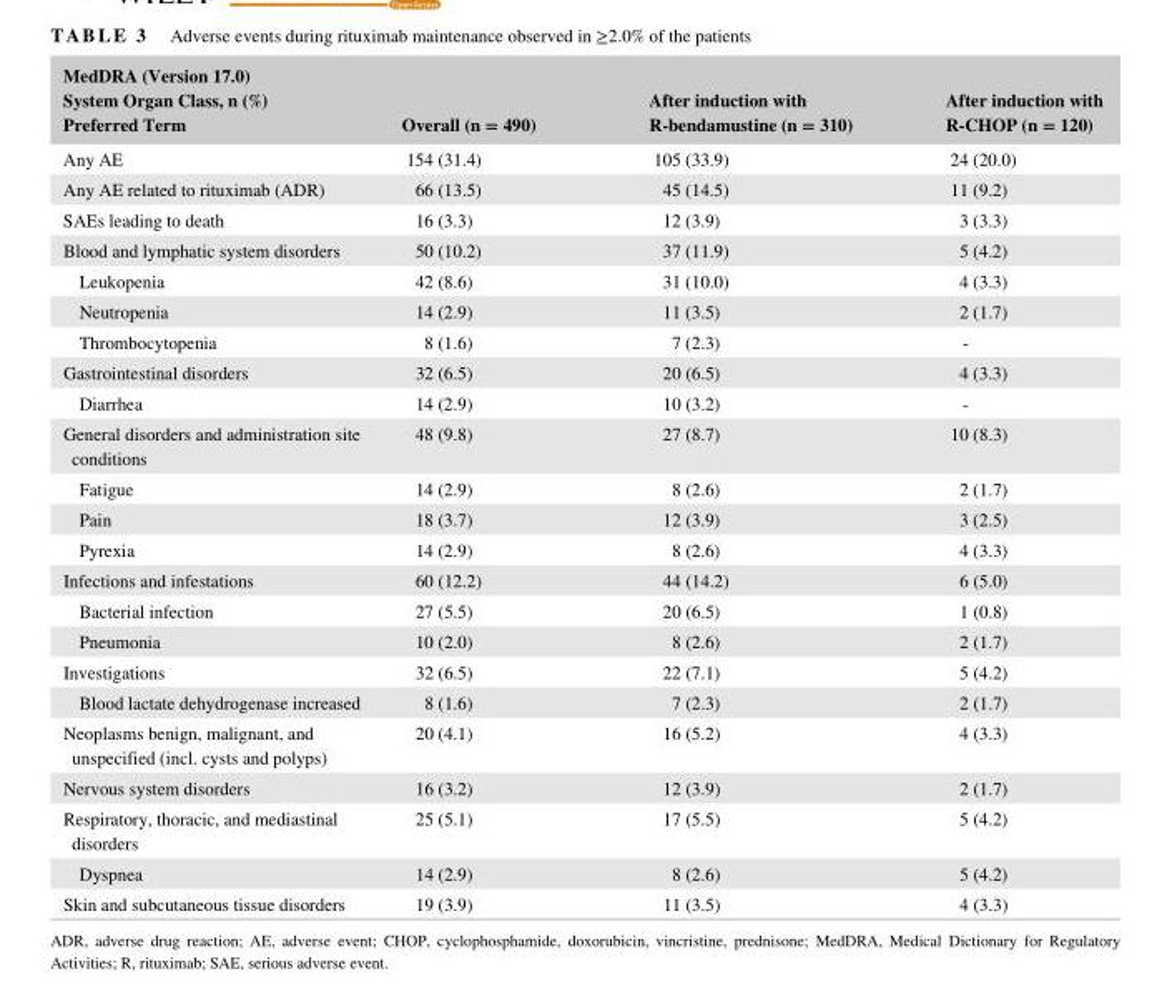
<table><thead><tr><td>MedDRA (Version 17.0) System Organ Class, n (%) Preferred Term</td><td>Overall (n = 490)</td><td>After induction with R- bendamustine (n = 310)</td><td>After induction with R- CHOP (n = 120)</td></tr></thead><tbody><tr><td>Any AE</td><td>154 (31.4)</td><td>105 (33.9)</td><td>24 (20.0)</td></tr><tr><td>Any AE related to rituximab (ADR)</td><td>66 (13.5)</td><td>45 (14.5)</td><td>11 (9.2)</td></tr><tr><td>SAEs leading to death</td><td>16 (3.3)</td><td>12 (3.9)</td><td>3 (3.3)</td></tr><tr><td>Blood and lymphatic system disorders</td><td>50 (10.2)</td><td>37 (11.9)</td><td>5 (4.2)</td></tr><tr><td>Leukopenia</td><td>42 (8.6)</td><td>31 (10.0)</td><td>4 (3.3)</td></tr><tr><td>Neutropenia</td><td>14 (2.9)</td><td>11 (3.5)</td><td>2 (1.7)</td></tr><tr><td>Thrombocytopenia</td><td>8 (1.6)</td><td>7 (2.3)</td><td>-</td></tr><tr><td>Gastrointestinal disorders</td><td>32 (6.5)</td><td>20 (6.5)</td><td>4 (3.3)</td></tr><tr><td>Diarrhea</td><td>14 (2.9)</td><td>10 (3.2)</td><td>-</td></tr><tr><td>General disorders and administration site conditions</td><td>48 (9.8)</td><td>27 (8.7)</td><td>10 (8.3)</td></tr><tr><td>Fatigue</td><td>14 (2.9)</td><td>8 (2.6)</td><td>2 (1.7)</td></tr><tr><td>Pain</td><td>18 (3.7)</td><td>12 (3.9)</td><td>3 (2.5)</td></tr><tr><td>Pyrexia</td><td>14 (2.9)</td><td>8 (2.6)</td><td>4 (3.3)</td></tr><tr><td>Infections and infestations</td><td>60 (12.2)</td><td>44 (14.2)</td><td>6 (5.0)</td></tr><tr><td>Bacterial infection</td><td>27 (5.5)</td><td>20 (6.5)</td><td>1 (0.8)</td></tr><tr><td>Pneumonia</td><td>10 (2.0)</td><td>8 (2.6)</td><td>2 (1.7)</td></tr><tr><td>Investigations</td><td>32 (6.5)</td><td>22 (7.1)</td><td>5 (4.2)</td></tr><tr><td>Blood lactate dehydrogenase increased</td><td>8 (1.6)</td><td>7 (2.3)</td><td>2 (1.7)</td></tr><tr><td>Neoplasms benign, malignant, and unspecified (incl. cysts and polyps)</td><td>20 (4.1)</td><td>16 (5.2)</td><td>4 (3.3)</td></tr><tr><td>Nervous system disorders</td><td>16 (3.2)</td><td>12 (3.9)</td><td>2 (1.7)</td></tr><tr><td>Respiratory, thoracic, and mediastinal disorders</td><td>25 (5.1)</td><td>17 (5.5)</td><td>5 (4.2)</td></tr><tr><td>Dyspnea</td><td>14 (2.9)</td><td>8 (2.6)</td><td>5 (4.2)</td></tr><tr><td>Skin and subcutaneous tissue disorders</td><td>19 (3.9)</td><td>11 (3.5)</td><td>4 (3.3)</td></tr></tbody></table>